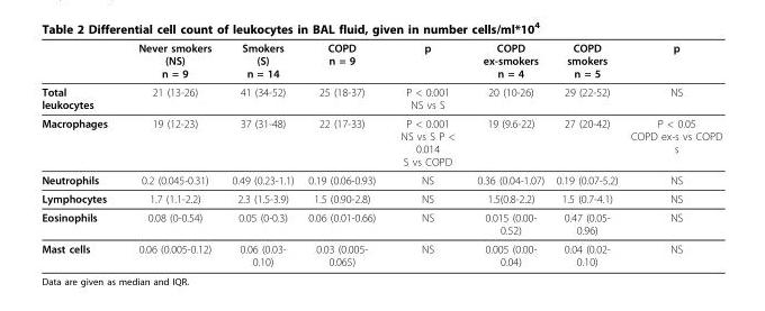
<table><thead><tr><td></td><td>Never smokers (NS) n = 9</td><td>Smokers (S) n = 14</td><td>COPD n = 9</td><td>p</td><td>COPD ex-smokers n = 4</td><td>COPD smokers n = 5</td><td>p</td></tr></thead><tbody><tr><td>Total leukocytes</td><td>21 (13-26)</td><td>41 (34-52)</td><td>25 (18-37)</td><td>P &lt; 0.001 NS vs S</td><td>20 (10-26)</td><td>29 (22-52)</td><td>NS</td></tr><tr><td>Macrophages</td><td>19 (12-23)</td><td>37 (31-48)</td><td>22 (17-33)</td><td>P &lt; 0.001 NS vs S P &lt; 0.014 S vs COPD</td><td>19 (9.6-22)</td><td>27 (20-42)</td><td>P &lt; 0.05 COPD ex-s vs COPD s</td></tr><tr><td>Neutrophils</td><td>0.2 (0.045-0.31)</td><td>0.49 (0.23-1.1)</td><td>0.19 (0.06-0.93)</td><td>NS</td><td>0.36 (0.04-1.07)</td><td>0.19 (0.07-5.2)</td><td>NS</td></tr><tr><td>Lymphocytes</td><td>1.7 (1.1-2.2)</td><td>2.3 (1.5-3.9)</td><td>1.5 (0.90-2.8)</td><td>NS</td><td>1.5(0.8-2.2)</td><td>1.5 (0.7-4.1)</td><td>NS</td></tr><tr><td>Eosinophils</td><td>0.08 (0-0.54)</td><td>0.05 (0-0.3)</td><td>0.06 (0.01-0.66)</td><td>NS</td><td>0.015 (0.00- 0.52)</td><td>0.47 (0.05- 0.96)</td><td>NS</td></tr><tr><td>Mast cells</td><td>0.06 (0.005-0.12)</td><td>0.06 (0.03- 0.10)</td><td>0.03 (0.005- 0.065)</td><td>NS</td><td>0.005 (0.00- 0.04)</td><td>0.04 (0.02- 0.10)</td><td>NS</td></tr></tbody></table>